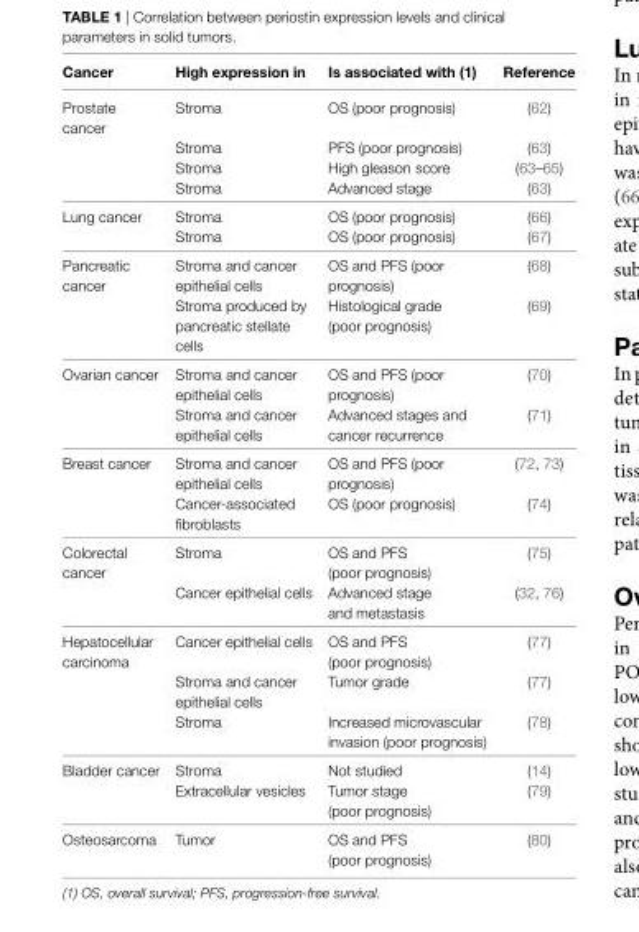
<table><thead><tr><td>Cancer</td><td>High expression in</td><td>is associated with (1)</td><td>Reference</td></tr></thead><tbody><tr><td rowspan="4">Prostate cancer</td><td>Stroma</td><td>OS (poor prognosis)</td><td>(62)</td></tr><tr><td>Stroma</td><td>PFS (poor prognosis)</td><td>(63)</td></tr><tr><td>Stroma</td><td>High gleason score</td><td>(63–65)</td></tr><tr><td>Stroma</td><td>Advanced stage</td><td>(63)</td></tr><tr><td rowspan="2">Lung cancer</td><td>Stroma</td><td>OS (poor prognosis)</td><td>(66)</td></tr><tr><td>Stroma</td><td>OS (poor prognosis)</td><td>(67)</td></tr><tr><td rowspan="2">Pancreatic cancer</td><td>Stroma and cancer epithelial cells</td><td>OS and PFS (poor prognosis)</td><td>(68)</td></tr><tr><td>Stroma produced by pancreatic stellate cells</td><td>Histological grade (poor prognosis)</td><td>(69)</td></tr><tr><td rowspan="2">Ovarian cancer</td><td>Stroma and cancer epithelial cells</td><td>OS and PFS (poor prognosis)</td><td>(70)</td></tr><tr><td>Stroma and cancer epithelial cells</td><td>Advanced stages and cancer recurrence</td><td>(71)</td></tr><tr><td rowspan="2">Breast cancer</td><td>Stroma and cancer epithelial cells</td><td>OS and PFS (poor prognosis)</td><td>(72, 73)</td></tr><tr><td>Cancer-associated fibroblasts</td><td>OS (poor prognosis)</td><td>(74)</td></tr><tr><td rowspan="2">Colorectal cancer</td><td>Stroma</td><td>OS and PFS (poor prognosis)</td><td>(75)</td></tr><tr><td>Cancer epithelial cells</td><td>Advanced stage and metastasis</td><td>(32, 76)</td></tr><tr><td rowspan="3">Hepatocellular carcinoma</td><td>Cancer epithelial cells</td><td>OS and PFS (poor prognosis)</td><td>(77)</td></tr><tr><td>Stroma and cancer epithelial cells</td><td>Tumor grade</td><td>(77)</td></tr><tr><td>Stroma</td><td>Increased microvascular invasion (poor prognosis)</td><td>(78)</td></tr><tr><td rowspan="2">Bladder cancer</td><td>Stroma</td><td>Not studied</td><td>(14)</td></tr><tr><td>Extracellular vesicles</td><td>Tumor stage (poor prognosis)</td><td>(79)</td></tr><tr><td>Osteosarcoma</td><td>Tumor</td><td>OS and PFS (poor prognosis)</td><td>(80)</td></tr></tbody></table>